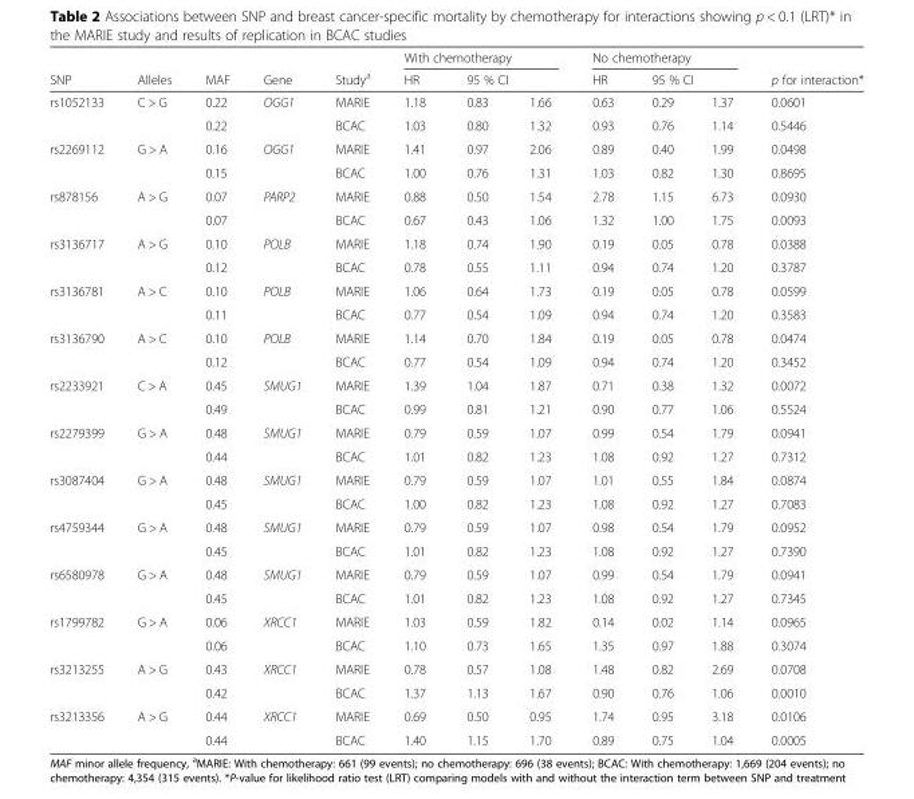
<table><thead><tr><td rowspan="3">SNP rs1052133</td><td rowspan="3">Alleles C &gt; G</td><td rowspan="3">MAF 0.22</td><td rowspan="3">Gene OGG1</td><td rowspan="3">Study<sup>a</sup> MARIE</td><td colspan="3">With chemotherapy</td><td colspan="3">No chemotherapy</td><td rowspan="3">p for interaction* 0.0601</td></tr><tr><td rowspan="2">HR 1.18</td><td colspan="2">95 % CI</td><td rowspan="2">HR 0.63</td><td colspan="2">95 % CI</td></tr><tr><td>0.83</td><td>1.66</td><td>0.29</td><td>1.37</td></tr></thead><tbody><tr><td></td><td></td><td>0.22</td><td></td><td>BCAC</td><td>1.03</td><td>0.80</td><td>1.32</td><td>0.93</td><td>0.76</td><td>1.14</td><td>0.5446</td></tr><tr><td rowspan="2">rs2269112</td><td>G &gt; A</td><td>0.16</td><td>OGG1</td><td>MARIE</td><td>1.41</td><td>0.97</td><td>2.06</td><td>0.89</td><td>0.40</td><td>1.99</td><td>0.0498</td></tr><tr><td></td><td>0.15</td><td></td><td>BCAC</td><td>1.00</td><td>0.76</td><td>1.31</td><td>1.03</td><td>0.82</td><td>1.30</td><td>0.8695</td></tr><tr><td rowspan="2">rs878156</td><td>A &gt; G</td><td>0.07</td><td>PARP2</td><td>MARIE</td><td>0.88</td><td>0.50</td><td>1.54</td><td>2.78</td><td>1.15</td><td>6.73</td><td>0.0930</td></tr><tr><td></td><td>0.07</td><td></td><td>BCAC</td><td>0.67</td><td>0.43</td><td>1.06</td><td>1.32</td><td>1.00</td><td>1.75</td><td>0.0093</td></tr><tr><td rowspan="2">rs3136717</td><td>A &gt; G</td><td>0.10</td><td>POLB</td><td>MARIE</td><td>1.18</td><td>0.74</td><td>1.90</td><td>0.19</td><td>0.05</td><td>0.78</td><td>0.0388</td></tr><tr><td></td><td>0.12</td><td></td><td>BCAC</td><td>0.78</td><td>0.55</td><td>1.11</td><td>0.94</td><td>0.74</td><td>1.20</td><td>0.3787</td></tr><tr><td rowspan="2">rs3136781</td><td>A &gt; C</td><td>0.10</td><td>POLB</td><td>MARIE</td><td>1.06</td><td>0.64</td><td>1.73</td><td>0.19</td><td>0.05</td><td>0.78</td><td>0.0599</td></tr><tr><td></td><td>0.11</td><td></td><td>BCAC</td><td>0.77</td><td>0.54</td><td>1.09</td><td>0.94</td><td>0.74</td><td>1.20</td><td>0.3583</td></tr><tr><td rowspan="2">rs3136790</td><td>A &gt; C</td><td>0.10</td><td>POLB</td><td>MARIE</td><td>1.14</td><td>0.70</td><td>1.84</td><td>0.19</td><td>0.05</td><td>0.78</td><td>0.0474</td></tr><tr><td></td><td>0.12</td><td></td><td>BCAC</td><td>0.77</td><td>0.54</td><td>1.09</td><td>0.94</td><td>0.74</td><td>1.20</td><td>0.3452</td></tr><tr><td rowspan="2">rs2233921</td><td>C &gt; A</td><td>0.45</td><td>SMUG1</td><td>MARIE</td><td>1.39</td><td>1.04</td><td>1.87</td><td>0.71</td><td>0.38</td><td>1.32</td><td>0.0072</td></tr><tr><td></td><td>0.49</td><td></td><td>BCAC</td><td>0.99</td><td>0.81</td><td>1.21</td><td>0.90</td><td>0.77</td><td>1.06</td><td>0.5524</td></tr><tr><td rowspan="2">rs2279399</td><td>G &gt; A</td><td>0.48</td><td>SMUG1</td><td>MARIE</td><td>0.79</td><td>0.59</td><td>1.07</td><td>0.99</td><td>0.54</td><td>1.79</td><td>0.0941</td></tr><tr><td></td><td>0.44</td><td></td><td>BCAC</td><td>1.01</td><td>0.82</td><td>1.23</td><td>1.08</td><td>0.92</td><td>1.27</td><td>0.7312</td></tr><tr><td rowspan="2">rs3087404</td><td>G &gt; A</td><td>0.48</td><td>SMUG1</td><td>MARIE</td><td>0.79</td><td>0.59</td><td>1.07</td><td>1.01</td><td>0.55</td><td>1.84</td><td>0.0874</td></tr><tr><td></td><td>0.45</td><td></td><td>BCAC</td><td>1.00</td><td>0.82</td><td>1.23</td><td>1.08</td><td>0.92</td><td>1.27</td><td>0.7083</td></tr><tr><td rowspan="2">rs4759344</td><td>G &gt; A</td><td>0.48</td><td>SMUG1</td><td>MARIE</td><td>0.79</td><td>0.59</td><td>1.07</td><td>0.98</td><td>0.54</td><td>1.79</td><td>0.0952</td></tr><tr><td></td><td>0.45</td><td></td><td>BCAC</td><td>1.01</td><td>0.82</td><td>1.23</td><td>1.08</td><td>0.92</td><td>1.27</td><td>0.7390</td></tr><tr><td rowspan="2">rs6580978</td><td>G &gt; A</td><td>0.48</td><td>SMUG1</td><td>MARIE</td><td>0.79</td><td>0.59</td><td>1.07</td><td>0.99</td><td>0.54</td><td>1.79</td><td>0.0941</td></tr><tr><td></td><td>0.45</td><td></td><td>BCAC</td><td>1.01</td><td>0.82</td><td>1.23</td><td>1.08</td><td>0.92</td><td>1.27</td><td>0.7345</td></tr><tr><td rowspan="2">rs1799782</td><td>G &gt; A</td><td>0.06</td><td>XRCC1</td><td>MARIE</td><td>1.03</td><td>0.59</td><td>1.82</td><td>0.14</td><td>0.02</td><td>1.14</td><td>0.0965</td></tr><tr><td></td><td>0.06</td><td></td><td>BCAC</td><td>1.10</td><td>0.73</td><td>1.65</td><td>1.35</td><td>0.97</td><td>1.88</td><td>0.3074</td></tr><tr><td rowspan="2">rs3213255</td><td>A &gt; G</td><td>0.43</td><td>XRCC1</td><td>MARIE</td><td>0.78</td><td>0.57</td><td>1.08</td><td>1.48</td><td>0.82</td><td>2.69</td><td>0.0708</td></tr><tr><td></td><td>0.42</td><td></td><td>BCAC</td><td>1.37</td><td>1.13</td><td>1.67</td><td>0.90</td><td>0.76</td><td>1.06</td><td>0.0010</td></tr><tr><td rowspan="2">rs3213356</td><td>A &gt; G</td><td>0.44</td><td>XRCC1</td><td>MARIE</td><td>0.69</td><td>0.50</td><td>0.95</td><td>1.74</td><td>0.95</td><td>3.18</td><td>0.0106</td></tr><tr><td></td><td>0.44</td><td></td><td>BCAC</td><td>1.40</td><td>1.15</td><td>1.70</td><td>0.89</td><td>0.75</td><td>1.04</td><td>0.0005</td></tr></tbody></table>